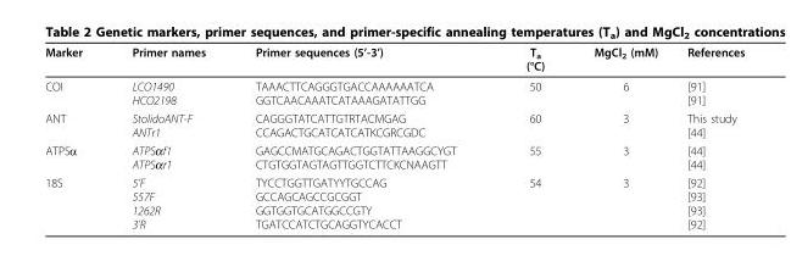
<table><thead><tr><td>Marker</td><td>Primer names</td><td>Primer sequences (5’-3’)</td><td>T<sub>a</sub> (°C)</td><td>MgCl<sub>2</sub> (mM)</td><td>References</td></tr></thead><tbody><tr><td>COI</td><td>LCO1490 HCO2198</td><td>TAAACTTCAGGGTGACCAAAAAATCA GGTCAACAAATCATAAAGATATTGG</td><td>50</td><td>6</td><td>[91] [91]</td></tr><tr><td>ANT</td><td>StolidoANT-F ANTr1</td><td>CAGGGTATCATTGTRTACMGAG CCAGACTGCATCATCATKCGRCGDC</td><td>60</td><td>3</td><td>This study [44]</td></tr><tr><td>ATPSα</td><td>ATPSαf1 ATPSαr1</td><td>GAGCCMATGCAGACTGGTATTAAGGCYGT CTGTGGTAGTAGTTGGTCTTCKCNAAGTT</td><td>55</td><td>3</td><td>[44] [44]</td></tr><tr><td>18S</td><td>5’F 557F 1262R 3’R</td><td>TYCCTGGTTGATYYTGCCAG GCCAGCAGCCGCGGT GGTGGTGCATGGCCGTY TGATCCATCTGCAGGTYCACCT</td><td>54</td><td>3</td><td>[92] [93] [93] [92]</td></tr></tbody></table>